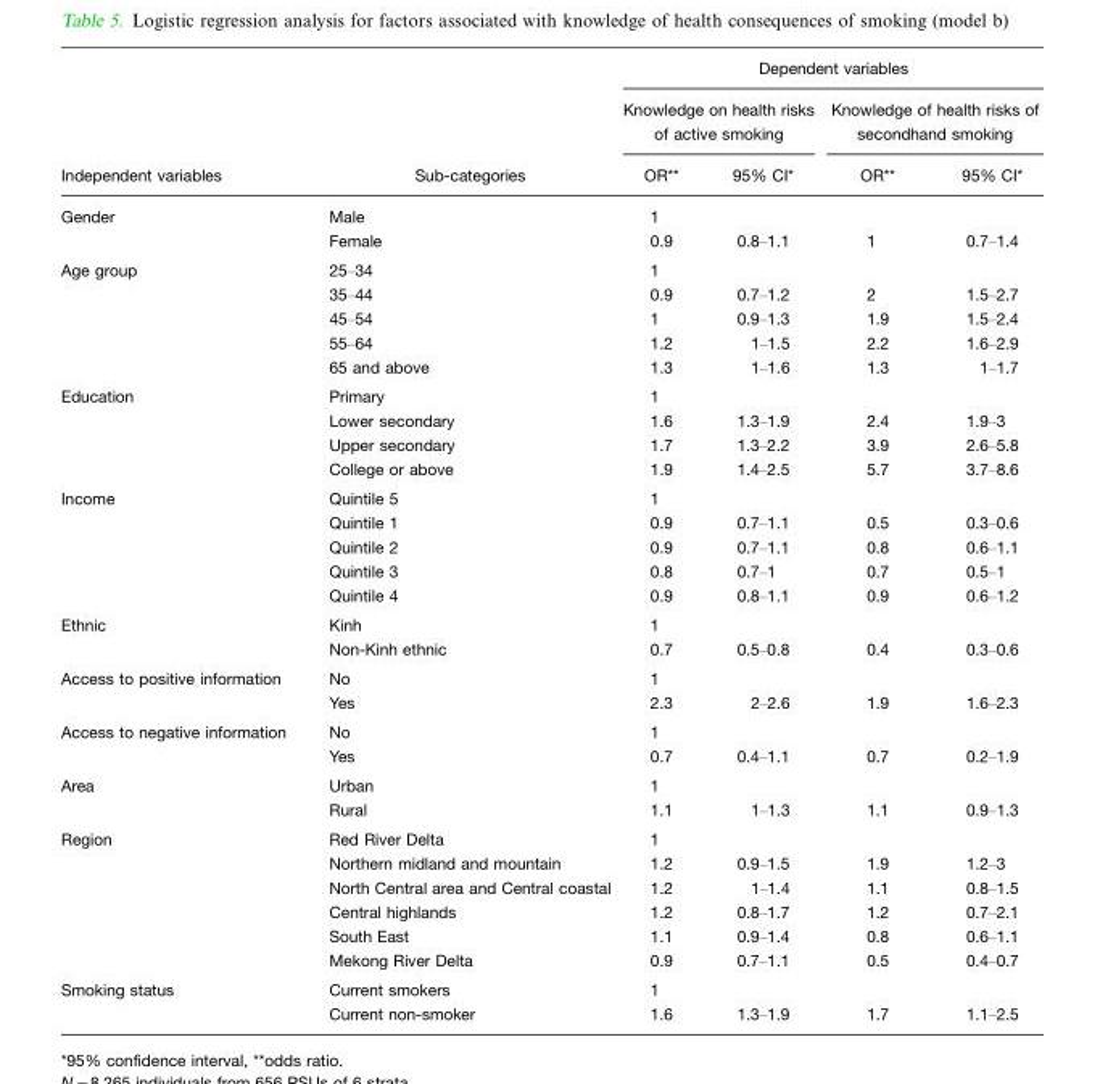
<table><thead><tr><td rowspan="3">Independent variables</td><td rowspan="3">Sub-categories</td><td colspan="4">Dependent variables</td></tr><tr><td colspan="2">Knowledge on health risks of active smoking</td><td colspan="2">Knowledge of health risks of secondhand smoking</td></tr><tr><td>OR**</td><td>95% CI*</td><td>OR**</td><td>95% CI*</td></tr></thead><tbody><tr><td rowspan="2">Gender</td><td>Male</td><td>1</td><td></td><td></td><td></td></tr><tr><td>Female</td><td>0.9</td><td>0.8–1.1</td><td>1</td><td>0.7–1.4</td></tr><tr><td rowspan="5">Age group</td><td>25–34</td><td>1</td><td></td><td></td><td></td></tr><tr><td>35–44</td><td>0.9</td><td>0.7–1.2</td><td>2</td><td>1.5–2.7</td></tr><tr><td>45–54</td><td>1</td><td>0.9–1.3</td><td>1.9</td><td>1.5–2.4</td></tr><tr><td>55–64</td><td>1.2</td><td>1–1.5</td><td>2.2</td><td>1.6–2.9</td></tr><tr><td>65 and above</td><td>1.3</td><td>1–1.6</td><td>1.3</td><td>1–1.7</td></tr><tr><td rowspan="4">Education</td><td>Primary</td><td>1</td><td></td><td></td><td></td></tr><tr><td>Lower secondary</td><td>1.6</td><td>1.3–1.9</td><td>2.4</td><td>1.9–3</td></tr><tr><td>Upper secondary</td><td>1.7</td><td>1.3–2.2</td><td>3.9</td><td>2.6–5.8</td></tr><tr><td>College or above</td><td>1.9</td><td>1.4–2.5</td><td>5.7</td><td>3.7–8.6</td></tr><tr><td rowspan="5">Income</td><td>Quintile 5</td><td>1</td><td></td><td></td><td></td></tr><tr><td>Quintile 1</td><td>0.9</td><td>0.7–1.1</td><td>0.5</td><td>0.3–0.6</td></tr><tr><td>Quintile 2</td><td>0.9</td><td>0.7–1.1</td><td>0.8</td><td>0.6–1.1</td></tr><tr><td>Quintile 3</td><td>0.8</td><td>0.7–1</td><td>0.7</td><td>0.5–1</td></tr><tr><td>Quintile 4</td><td>0.9</td><td>0.8–1.1</td><td>0.9</td><td>0.6–1.2</td></tr><tr><td rowspan="2">Ethnic</td><td>Kinh</td><td>1</td><td></td><td></td><td></td></tr><tr><td>Non-Kinh ethnic</td><td>0.7</td><td>0.5–0.8</td><td>0.4</td><td>0.3–0.6</td></tr><tr><td rowspan="2">Access to positive information</td><td>No</td><td>1</td><td></td><td></td><td></td></tr><tr><td>Yes</td><td>2.3</td><td>2–2.6</td><td>1.9</td><td>1.6–2.3</td></tr><tr><td rowspan="2">Access to negative information</td><td>No</td><td>1</td><td></td><td></td><td></td></tr><tr><td>Yes</td><td>0.7</td><td>0.4–1.1</td><td>0.7</td><td>0.2–1.9</td></tr><tr><td rowspan="2">Area</td><td>Urban</td><td>1</td><td></td><td></td><td></td></tr><tr><td>Rural</td><td>1.1</td><td>1–1.3</td><td>1.1</td><td>0.9–1.3</td></tr><tr><td rowspan="6">Region</td><td>Red River Delta</td><td>1</td><td></td><td></td><td></td></tr><tr><td>Northern midland and mountain</td><td>1.2</td><td>0.9–1.5</td><td>1.9</td><td>1.2–3</td></tr><tr><td>North Central area and Central coastal</td><td>1.2</td><td>1–1.4</td><td>1.1</td><td>0.8–1.5</td></tr><tr><td>Central highlands</td><td>1.2</td><td>0.8–1.7</td><td>1.2</td><td>0.7–2.1</td></tr><tr><td>South East</td><td>1.1</td><td>0.9–1.4</td><td>0.8</td><td>0.6–1.1</td></tr><tr><td>Mekong River Delta</td><td>0.9</td><td>0.7–1.1</td><td>0.5</td><td>0.4–0.7</td></tr><tr><td rowspan="2">Smoking status</td><td>Current smokers</td><td>1</td><td></td><td></td><td></td></tr><tr><td>Current non-smoker</td><td>1.6</td><td>1.3–1.9</td><td>1.7</td><td>1.1–2.5</td></tr></tbody></table>